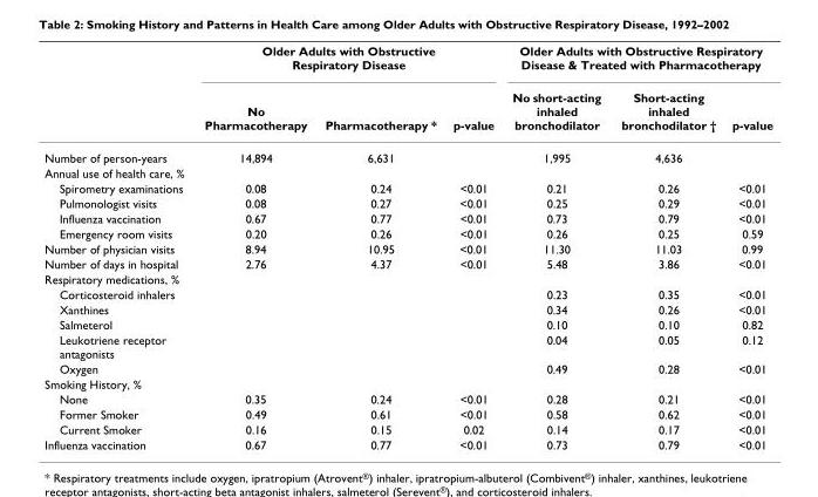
<table><thead><tr><td rowspan="2"></td><td colspan="3">Older Adults with Obstructive Respiratory Disease</td><td colspan="3">Older Adults with Obstructive Respiratory Disease &amp; Treated with Pharmacotherapy</td></tr><tr><td>No Pharmacotherapy</td><td>Pharmacotherapy *</td><td>p-value</td><td>No short-acting inhaled bronchodilator</td><td>Short-acting inhaled bronchodilator †</td><td>p-value</td></tr></thead><tbody><tr><td>Number of person-years</td><td>14,894</td><td>6,631</td><td></td><td>1,995</td><td>4,636</td><td></td></tr><tr><td colspan="7">Annual use of health care, %</td></tr><tr><td>Spirometry examinations</td><td>0.08</td><td>0.24</td><td>&lt;0.01</td><td>0.21</td><td>0.26</td><td>&lt;0.01</td></tr><tr><td>Pulmonologist visits</td><td>0.08</td><td>0.27</td><td>&lt;0.01</td><td>0.25</td><td>0.29</td><td>&lt;0.01</td></tr><tr><td>Influenza vaccination</td><td>0.67</td><td>0.77</td><td>&lt;0.01</td><td>0.73</td><td>0.79</td><td>&lt;0.01</td></tr><tr><td>Emergency room visits</td><td>0.20</td><td>0.26</td><td>&lt;0.01</td><td>0.26</td><td>0.25</td><td>0.59</td></tr><tr><td>Number of physician visits</td><td>8.94</td><td>10.95</td><td>&lt;0.01</td><td>11.30</td><td>11.03</td><td>0.99</td></tr><tr><td>Number of days in hospital</td><td>2.76</td><td>4.37</td><td>&lt;0.01</td><td>5.48</td><td>3.86</td><td>&lt;0.01</td></tr><tr><td colspan="7">Respiratory medications, %</td></tr><tr><td>Corticosteroid inhalers</td><td></td><td></td><td></td><td>0.23</td><td>0.35</td><td>&lt;0.01</td></tr><tr><td>Xanthines</td><td></td><td></td><td></td><td>0.34</td><td>0.26</td><td>&lt;0.01</td></tr><tr><td>Salmeterol</td><td></td><td></td><td></td><td>0.10</td><td>0.10</td><td>0.82</td></tr><tr><td>Leukotriene receptor antagonists</td><td></td><td></td><td></td><td>0.04</td><td>0.05</td><td>0.12</td></tr><tr><td>Oxygen</td><td></td><td></td><td></td><td>0.49</td><td>0.28</td><td>&lt;0.01</td></tr><tr><td colspan="7">Smoking History, %</td></tr><tr><td>None</td><td>0.35</td><td>0.24</td><td>&lt;0.01</td><td>0.28</td><td>0.21</td><td>&lt;0.01</td></tr><tr><td>Former Smoker</td><td>0.49</td><td>0.61</td><td>&lt;0.01</td><td>0.58</td><td>0.62</td><td>&lt;0.01</td></tr><tr><td>Current Smoker</td><td>0.16</td><td>0.15</td><td>0.02</td><td>0.14</td><td>0.17</td><td>&lt;0.01</td></tr><tr><td>Influenza vaccination</td><td>0.67</td><td>0.77</td><td>&lt;0.01</td><td>0.73</td><td>0.79</td><td>&lt;0.01</td></tr></tbody></table>